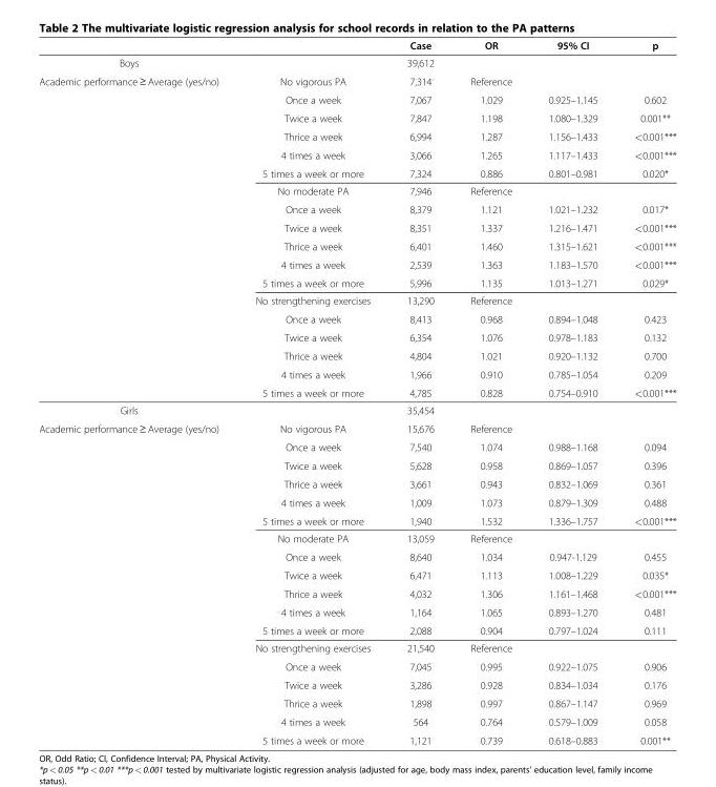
<table><thead><tr><td></td><td></td><td>Case</td><td>OR</td><td>95% CI</td><td>p</td></tr></thead><tbody><tr><td>Boys</td><td></td><td>39,612</td><td></td><td></td><td></td></tr><tr><td rowspan="18">Academic performance ≥ Average (yes/no)</td><td>No vigorous PA</td><td>7,314</td><td>Reference</td><td></td><td></td></tr><tr><td>Once a week</td><td>7,067</td><td>1.029</td><td>0.925–1.145</td><td>0.602</td></tr><tr><td>Twice a week</td><td>7,847</td><td>1.198</td><td>1.080–1.329</td><td>0.001**</td></tr><tr><td>Thrice a week</td><td>6,994</td><td>1.287</td><td>1.156–1.433</td><td>&lt;0.001***</td></tr><tr><td>4 times a week</td><td>3,066</td><td>1.265</td><td>1.117–1.433</td><td>&lt;0.001***</td></tr><tr><td>5 times a week or more</td><td>7,324</td><td>0.886</td><td>0.801–0.981</td><td>0.020*</td></tr><tr><td>No moderate PA</td><td>7,946</td><td>Reference</td><td></td><td></td></tr><tr><td>Once a week</td><td>8,379</td><td>1.121</td><td>1.021–1.232</td><td>0.017*</td></tr><tr><td>Twice a week</td><td>8,351</td><td>1.337</td><td>1.216–1.471</td><td>&lt;0.001***</td></tr><tr><td>Thrice a week</td><td>6,401</td><td>1.460</td><td>1.315–1.621</td><td>&lt;0.001***</td></tr><tr><td>4 times a week</td><td>2,539</td><td>1.363</td><td>1.183–1.570</td><td>&lt;0.001***</td></tr><tr><td>5 times a week or more</td><td>5,996</td><td>1.135</td><td>1.013–1.271</td><td>0.029*</td></tr><tr><td>No strengthening exercises</td><td>13,290</td><td>Reference</td><td></td><td></td></tr><tr><td>Once a week</td><td>8,413</td><td>0.968</td><td>0.894–1.048</td><td>0.423</td></tr><tr><td>Twice a week</td><td>6,354</td><td>1.076</td><td>0.978–1.183</td><td>0.132</td></tr><tr><td>Thrice a week</td><td>4,804</td><td>1.021</td><td>0.920–1.132</td><td>0.700</td></tr><tr><td>4 times a week</td><td>1,966</td><td>0.910</td><td>0.785–1.054</td><td>0.209</td></tr><tr><td>5 times a week or more</td><td>4,785</td><td>0.828</td><td>0.754–0.910</td><td>&lt;0.001***</td></tr><tr><td>Girls</td><td></td><td>35,454</td><td></td><td></td><td></td></tr><tr><td rowspan="18">Academic performance ≥ Average (yes/no)</td><td>No vigorous PA</td><td>15,676</td><td>Reference</td><td></td><td></td></tr><tr><td>Once a week</td><td>7,540</td><td>1.074</td><td>0.988–1.168</td><td>0.094</td></tr><tr><td>Twice a week</td><td>5,628</td><td>0.958</td><td>0.869–1.057</td><td>0.396</td></tr><tr><td>Thrice a week</td><td>3,661</td><td>0.943</td><td>0.832–1.069</td><td>0.361</td></tr><tr><td>4 times a week</td><td>1,009</td><td>1.073</td><td>0.879–1.309</td><td>0.488</td></tr><tr><td>5 times a week or more</td><td>1,940</td><td>1.532</td><td>1.336–1.757</td><td>&lt;0.001***</td></tr><tr><td>No moderate PA</td><td>13,059</td><td>Reference</td><td></td><td></td></tr><tr><td>Once a week</td><td>8,640</td><td>1.034</td><td>0.947-1.129</td><td>0.455</td></tr><tr><td>Twice a week</td><td>6,471</td><td>1.113</td><td>1.008–1.229</td><td>0.035*</td></tr><tr><td>Thrice a week</td><td>4,032</td><td>1.306</td><td>1.161–1.468</td><td>&lt;0.001***</td></tr><tr><td>4 times a week</td><td>1,164</td><td>1.065</td><td>0.893–1.270</td><td>0.481</td></tr><tr><td>5 times a week or more</td><td>2,088</td><td>0.904</td><td>0.797–1.024</td><td>0.111</td></tr><tr><td>No strengthening exercises</td><td>21,540</td><td>Reference</td><td></td><td></td></tr><tr><td>Once a week</td><td>7,045</td><td>0.995</td><td>0.922–1.075</td><td>0.906</td></tr><tr><td>Twice a week</td><td>3,286</td><td>0.928</td><td>0.834–1.034</td><td>0.176</td></tr><tr><td>Thrice a week</td><td>1,898</td><td>0.997</td><td>0.867–1.147</td><td>0.969</td></tr><tr><td>4 times a week</td><td>564</td><td>0.764</td><td>0.579–1.009</td><td>0.058</td></tr><tr><td>5 times a week or more</td><td>1,121</td><td>0.739</td><td>0.618–0.883</td><td>0.001**</td></tr></tbody></table>